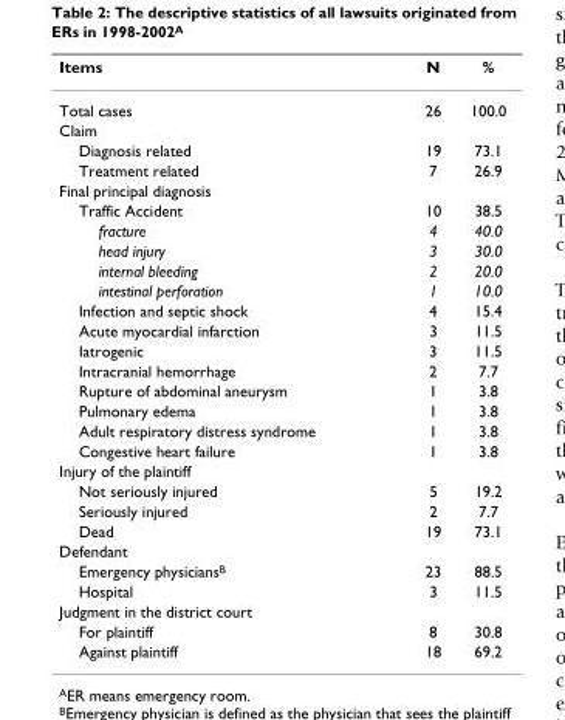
<table><thead><tr><td>Items</td><td>N</td><td>%</td></tr></thead><tbody><tr><td>Total cases</td><td>26</td><td>100.0</td></tr><tr><td colspan="3">Claim</td></tr><tr><td>Diagnosis related</td><td>19</td><td>73.1</td></tr><tr><td>Treatment related</td><td>7</td><td>26.9</td></tr><tr><td colspan="3">Final principal diagnosis</td></tr><tr><td>Traffic Accident</td><td>10</td><td>38.5</td></tr><tr><td>fracture</td><td>4</td><td>40.0</td></tr><tr><td>head injury</td><td>3</td><td>30.0</td></tr><tr><td>internal bleeding</td><td>2</td><td>20.0</td></tr><tr><td>intestinal perforation</td><td>1</td><td>10.0</td></tr><tr><td>Infection and septic shock</td><td>4</td><td>15.4</td></tr><tr><td>Acute myocardial infarction</td><td>3</td><td>11.5</td></tr><tr><td>Iatrogenic</td><td>3</td><td>11.5</td></tr><tr><td>Intracranial hemorrhage</td><td>2</td><td>7.7</td></tr><tr><td>Rupture of abdominal aneurysm</td><td>1</td><td>3.8</td></tr><tr><td>Pulmonary edema</td><td>1</td><td>3.8</td></tr><tr><td>Adult respiratory distress syndrome</td><td>1</td><td>3.8</td></tr><tr><td>Congestive heart failure</td><td>1</td><td>3.8</td></tr><tr><td colspan="3">Injury of the plaintiff</td></tr><tr><td>Not seriously injured</td><td>5</td><td>19.2</td></tr><tr><td>Seriously injured</td><td>2</td><td>7.7</td></tr><tr><td>Dead</td><td>19</td><td>73.1</td></tr><tr><td colspan="3">Defendant</td></tr><tr><td>Emergency physicians<sup>B</sup></td><td>23</td><td>88.5</td></tr><tr><td>Hospital</td><td>3</td><td>11.5</td></tr><tr><td colspan="3">Judgment in the district court</td></tr><tr><td>For plaintiff</td><td>8</td><td>30.8</td></tr><tr><td>Against plaintiff</td><td>18</td><td>69.2</td></tr></tbody></table>